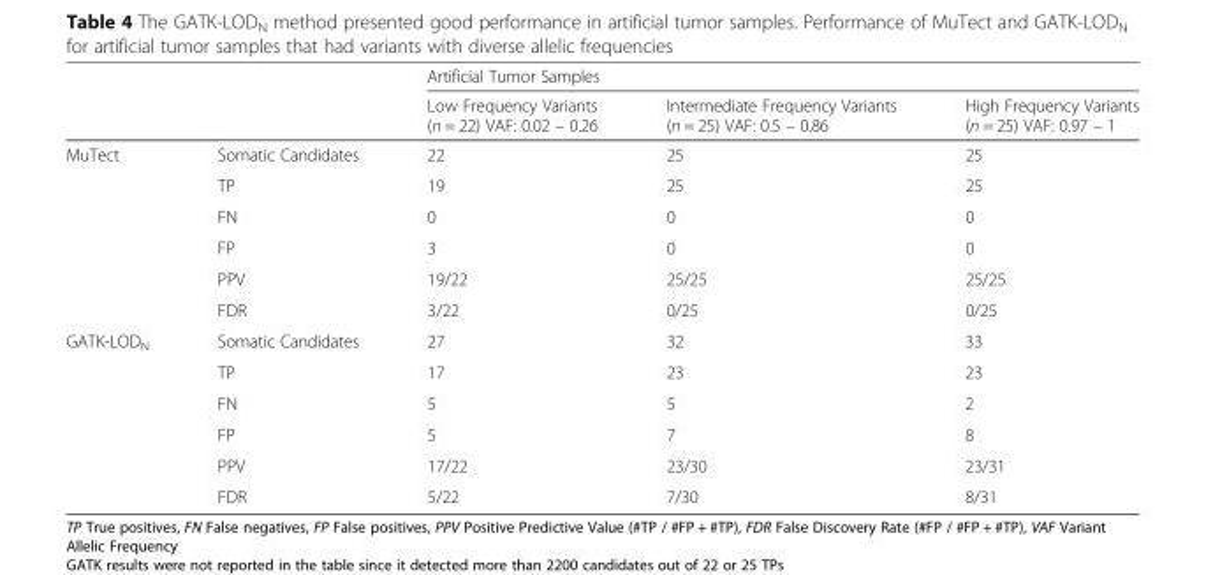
<table><thead><tr><td rowspan="2"></td><td rowspan="2"></td><td colspan="3">Artificial Tumor Samples</td></tr><tr><td>Low Frequency Variants (n = 22) VAF: 0.02 – 0.26</td><td>Intermediate Frequency Variants (n = 25) VAF: 0.5 – 0.86</td><td>High Frequency Variants (n = 25) VAF: 0.97 – 1</td></tr></thead><tbody><tr><td rowspan="6">MuTect</td><td>Somatic Candidates</td><td>22</td><td>25</td><td>25</td></tr><tr><td>TP</td><td>19</td><td>25</td><td>25</td></tr><tr><td>FN</td><td>0</td><td>0</td><td>0</td></tr><tr><td>FP</td><td>3</td><td>0</td><td>0</td></tr><tr><td>PPV</td><td>19/22</td><td>25/25</td><td>25/25</td></tr><tr><td>FDR</td><td>3/22</td><td>0/25</td><td>0/25</td></tr><tr><td rowspan="6">GATK-LOD<sub>N</sub></td><td>Somatic Candidates</td><td>27</td><td>32</td><td>33</td></tr><tr><td>TP</td><td>17</td><td>23</td><td>23</td></tr><tr><td>FN</td><td>5</td><td>5</td><td>2</td></tr><tr><td>FP</td><td>5</td><td>7</td><td>8</td></tr><tr><td>PPV</td><td>17/22</td><td>23/30</td><td>23/31</td></tr><tr><td>FDR</td><td>5/22</td><td>7/30</td><td>8/31</td></tr></tbody></table>